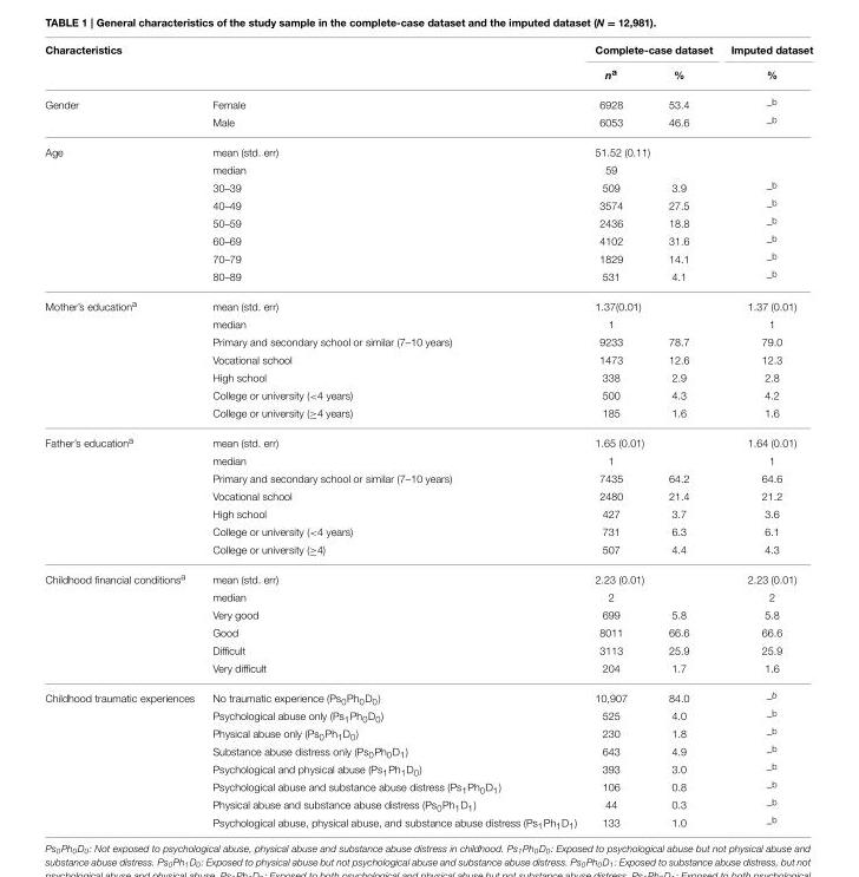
<table><thead><tr><td rowspan="2">Characteristics</td><td rowspan="2"></td><td colspan="2">Complete-case dataset</td><td rowspan="2">Imputed dataset %</td></tr><tr><td>n<sup>a</sup></td><td>%</td></tr></thead><tbody><tr><td rowspan="2">Gender</td><td>Female</td><td>6928</td><td>53.4</td><td>–<sup>b</sup></td></tr><tr><td>Male</td><td>6053</td><td>46.6</td><td>–<sup>b</sup></td></tr><tr><td rowspan="8">Age</td><td>mean (std. err)</td><td>51.52 (0.11)</td><td></td><td></td></tr><tr><td>median</td><td>59</td><td></td><td></td></tr><tr><td>30–39</td><td>509</td><td>3.9</td><td>–<sup>b</sup></td></tr><tr><td>40–49</td><td>3574</td><td>27.5</td><td>–<sup>b</sup></td></tr><tr><td>50–59</td><td>2436</td><td>18.8</td><td>–<sup>b</sup></td></tr><tr><td>60–69</td><td>4102</td><td>31.6</td><td>–<sup>b</sup></td></tr><tr><td>70–79</td><td>1829</td><td>14.1</td><td>–<sup>b</sup></td></tr><tr><td>80–89</td><td>531</td><td>4.1</td><td>–<sup>b</sup></td></tr><tr><td rowspan="7">Mother’s education<sup>a</sup></td><td>mean (std. err)</td><td>1.37(0.01)</td><td></td><td>1.37 (0.01)</td></tr><tr><td>median</td><td>1</td><td></td><td>1</td></tr><tr><td>Primary and secondary school or similar (7–10 years)</td><td>9233</td><td>78.7</td><td>79.0</td></tr><tr><td>Vocational school</td><td>1473</td><td>12.6</td><td>12.3</td></tr><tr><td>High school</td><td>338</td><td>2.9</td><td>2.8</td></tr><tr><td>College or university (&lt;4 years)</td><td>500</td><td>4.3</td><td>4.2</td></tr><tr><td>College or university (≥4 years)</td><td>185</td><td>1.6</td><td>1.6</td></tr><tr><td rowspan="7">Father’s education<sup>a</sup></td><td>mean (std. err)</td><td>1.65 (0.01)</td><td></td><td>1.64 (0.01)</td></tr><tr><td>median</td><td>1</td><td></td><td>1</td></tr><tr><td>Primary and secondary school or similar (7–10 years)</td><td>7435</td><td>64.2</td><td>64.6</td></tr><tr><td>Vocational school</td><td>2480</td><td>21.4</td><td>21.2</td></tr><tr><td>High school</td><td>427</td><td>3.7</td><td>3.6</td></tr><tr><td>College or university (&lt;4 years)</td><td>731</td><td>6.3</td><td>6.1</td></tr><tr><td>College or university (≥4)</td><td>507</td><td>4.4</td><td>4.3</td></tr><tr><td rowspan="6">Childhood financial conditions<sup>a</sup></td><td>mean (std. err)</td><td>2.23 (0.01)</td><td></td><td>2.23 (0.01)</td></tr><tr><td>median</td><td>2</td><td></td><td>2</td></tr><tr><td>Very good</td><td>699</td><td>5.8</td><td>5.8</td></tr><tr><td>Good</td><td>8011</td><td>66.6</td><td>66.6</td></tr><tr><td>Difficult</td><td>3113</td><td>25.9</td><td>25.9</td></tr><tr><td>Very difficult</td><td>204</td><td>1.7</td><td>1.6</td></tr><tr><td rowspan="8">Childhood traumatic experiences</td><td>No traumatic experience (Ps<sub>0</sub>Ph<sub>0</sub>D<sub>0</sub>)</td><td>10,907</td><td>84.0</td><td>–<sup>b</sup></td></tr><tr><td>Psychological abuse only (Ps<sub>1</sub>Ph<sub>0</sub>D<sub>0</sub>)</td><td>525</td><td>4.0</td><td>–<sup>b</sup></td></tr><tr><td>Physical abuse only (Ps<sub>0</sub>Ph<sub>1</sub>D<sub>0</sub>)</td><td>230</td><td>1.8</td><td>–<sup>b</sup></td></tr><tr><td>Substance abuse distress only (Ps<sub>0</sub>Ph<sub>0</sub>D<sub>1</sub>)</td><td>643</td><td>4.9</td><td>–<sup>b</sup></td></tr><tr><td>Psychological and physical abuse (Ps<sub>1</sub>Ph<sub>1</sub>D<sub>0</sub>)</td><td>393</td><td>3.0</td><td>–<sup>b</sup></td></tr><tr><td>Psychological abuse and substance abuse distress (Ps<sub>1</sub>Ph<sub>0</sub>D<sub>1</sub>)</td><td>106</td><td>0.8</td><td>–<sup>b</sup></td></tr><tr><td>Physical abuse and substance abuse distress (Ps<sub>0</sub>Ph<sub>1</sub>D<sub>1</sub>)</td><td>44</td><td>0.3</td><td>–<sup>b</sup></td></tr><tr><td>Psychological abuse, physical abuse, and substance abuse distress (Ps<sub>1</sub>Ph<sub>1</sub>D<sub>1</sub>)</td><td>133</td><td>1.0</td><td>–<sup>b</sup></td></tr></tbody></table>